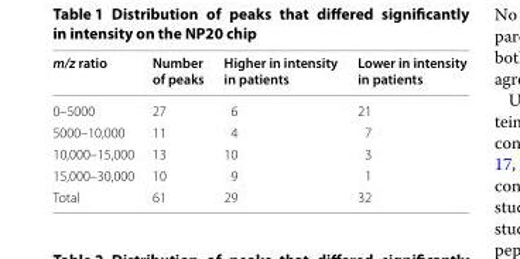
<table><thead><tr><td>m/z ratio</td><td>Number of peaks</td><td>Higher in intensity in patients</td><td>Lower in intensity in patients</td></tr></thead><tbody><tr><td>0–5000</td><td>27</td><td>6</td><td>21</td></tr><tr><td>5000–10,000</td><td>11</td><td>4</td><td>7</td></tr><tr><td>10,000–15,000</td><td>13</td><td>10</td><td>3</td></tr><tr><td>15,000–30,000</td><td>10</td><td>9</td><td>1</td></tr><tr><td>Total</td><td>61</td><td>29</td><td>32</td></tr></tbody></table>